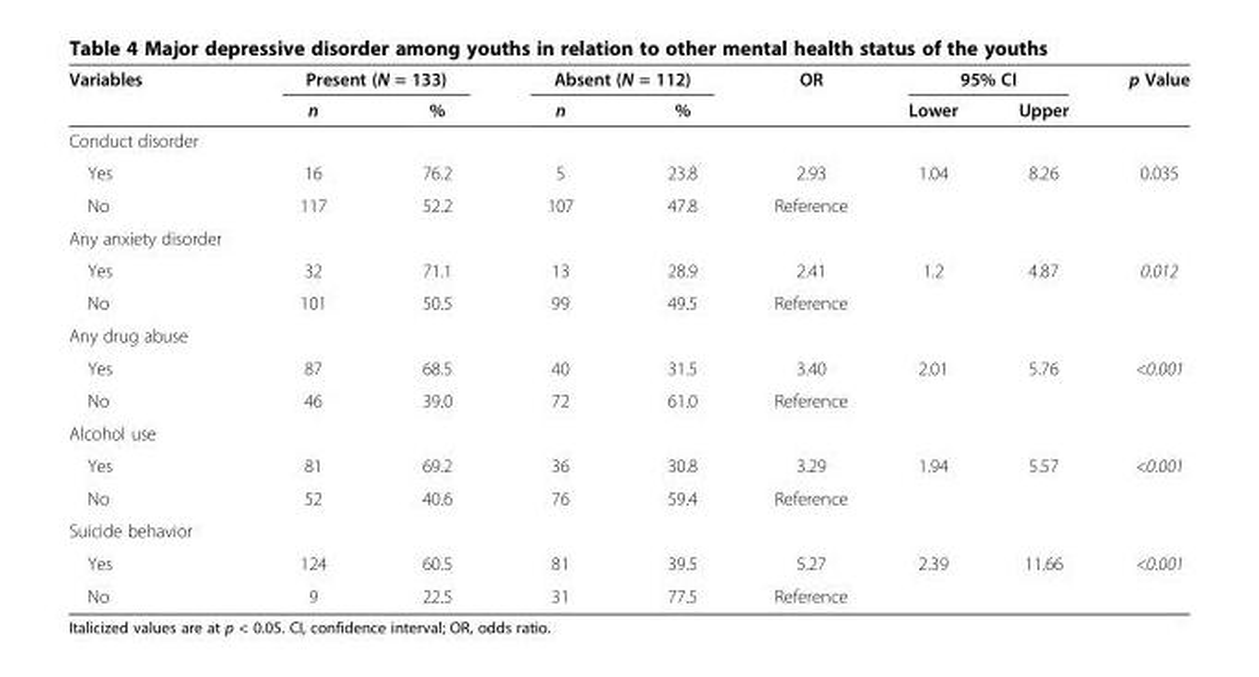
<table><thead><tr><td rowspan="2">Variables</td><td colspan="2">Present (N = 133)</td><td colspan="2">Absent (N = 112)</td><td rowspan="2">OR</td><td colspan="2">95% CI</td><td rowspan="2">p Value</td></tr><tr><td>n</td><td>%</td><td>n</td><td>%</td><td>Lower</td><td>Upper</td></tr></thead><tbody><tr><td colspan="9">Conduct disorder</td></tr><tr><td>Yes</td><td>16</td><td>76.2</td><td>5</td><td>23.8</td><td>2.93</td><td>1.04</td><td>8.26</td><td>0.035</td></tr><tr><td>No</td><td>117</td><td>52.2</td><td>107</td><td>47.8</td><td>Reference</td><td></td><td></td><td></td></tr><tr><td colspan="9">Any anxiety disorder</td></tr><tr><td>Yes</td><td>32</td><td>71.1</td><td>13</td><td>28.9</td><td>2.41</td><td>1.2</td><td>4.87</td><td>0.012</td></tr><tr><td>No</td><td>101</td><td>50.5</td><td>99</td><td>49.5</td><td>Reference</td><td></td><td></td><td></td></tr><tr><td colspan="9">Any drug abuse</td></tr><tr><td>Yes</td><td>87</td><td>68.5</td><td>40</td><td>31.5</td><td>3.40</td><td>2.01</td><td>5.76</td><td>&lt;0.001</td></tr><tr><td>No</td><td>46</td><td>39.0</td><td>72</td><td>61.0</td><td>Reference</td><td></td><td></td><td></td></tr><tr><td colspan="9">Alcohol use</td></tr><tr><td>Yes</td><td>81</td><td>69.2</td><td>36</td><td>30.8</td><td>3.29</td><td>1.94</td><td>5.57</td><td>&lt;0.001</td></tr><tr><td>No</td><td>52</td><td>40.6</td><td>76</td><td>59.4</td><td>Reference</td><td></td><td></td><td></td></tr><tr><td colspan="9">Suicide behavior</td></tr><tr><td>Yes</td><td>124</td><td>60.5</td><td>81</td><td>39.5</td><td>5.27</td><td>2.39</td><td>11.66</td><td>&lt;0.001</td></tr><tr><td>No</td><td>9</td><td>22.5</td><td>31</td><td>77.5</td><td>Reference</td><td></td><td></td><td></td></tr></tbody></table>